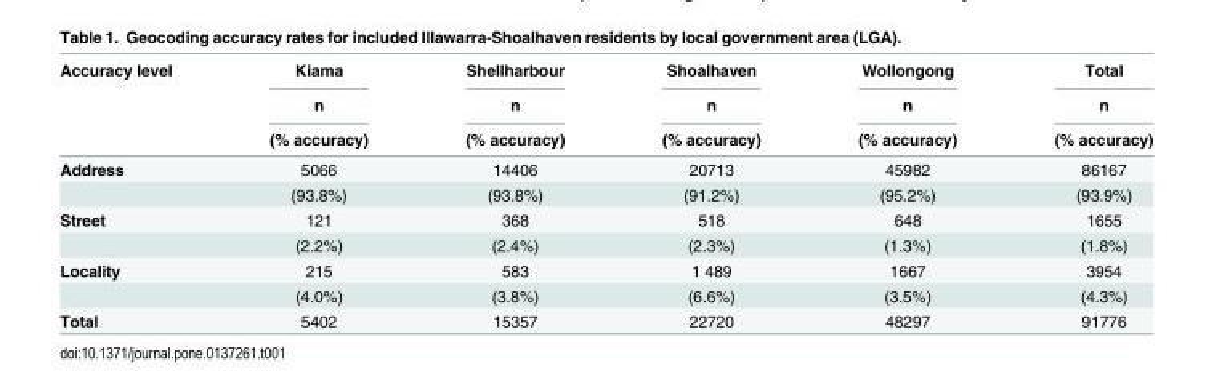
<table><thead><tr><td rowspan="3">Accuracy level</td><td rowspan="3">Kiama n (% accuracy)</td><td rowspan="3">Shellharbour n (% accuracy)</td><td rowspan="3">Shoalhaven n (% accuracy)</td><td rowspan="3">Wollongong n (% accuracy)</td><td rowspan="3">Total n (% accuracy)</td></tr><tr></tr><tr></tr></thead><tbody><tr><td rowspan="2">Address</td><td>5066</td><td>14406</td><td>20713</td><td>45982</td><td>86167</td></tr><tr><td>(93.8%)</td><td>(93.8%)</td><td>(91.2%)</td><td>(95.2%)</td><td>(93.9%)</td></tr><tr><td rowspan="2">Street</td><td>121</td><td>368</td><td>518</td><td>648</td><td>1655</td></tr><tr><td>(2.2%)</td><td>(2.4%)</td><td>(2.3%)</td><td>(1.3%)</td><td>(1.8%)</td></tr><tr><td rowspan="2">Locality</td><td>215</td><td>583</td><td>1 489</td><td>1667</td><td>3954</td></tr><tr><td>(4.0%)</td><td>(3.8%)</td><td>(6.6%)</td><td>(3.5%)</td><td>(4.3%)</td></tr><tr><td>Total</td><td>5402</td><td>15357</td><td>22720</td><td>48297</td><td>91776</td></tr></tbody></table>